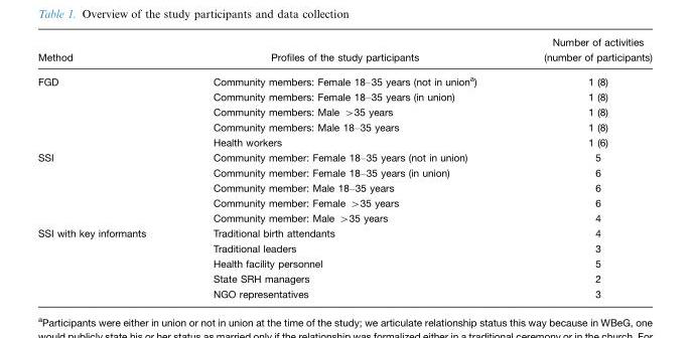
<table><thead><tr><td>Method</td><td>Profiles of the study participants</td><td>Number of activities (number of participants)</td></tr></thead><tbody><tr><td rowspan="5">FGD</td><td>Community members: Female 18–35 years (not in union<sup>a</sup>)</td><td>1 (8)</td></tr><tr><td>Community members: Female 18–35 years (in union)</td><td>1 (8)</td></tr><tr><td>Community members: Male &gt;35 years</td><td>1 (8)</td></tr><tr><td>Community members: Male 18–35 years</td><td>1 (8)</td></tr><tr><td>Health workers</td><td>1 (6)</td></tr><tr><td rowspan="5">SSI</td><td>Community member: Female 18–35 years (not in union)</td><td>5</td></tr><tr><td>Community member: Female 18–35 years (in union)</td><td>6</td></tr><tr><td>Community member: Male 18–35 years</td><td>6</td></tr><tr><td>Community member: Female &gt;35 years</td><td>6</td></tr><tr><td>Community member: Male &gt;35 years</td><td>4</td></tr><tr><td rowspan="5">SSI with key informants</td><td>Traditional birth attendants</td><td>4</td></tr><tr><td>Traditional leaders</td><td>3</td></tr><tr><td>Health facility personnel</td><td>5</td></tr><tr><td>State SRH managers</td><td>2</td></tr><tr><td>NGO representatives</td><td>3</td></tr></tbody></table>